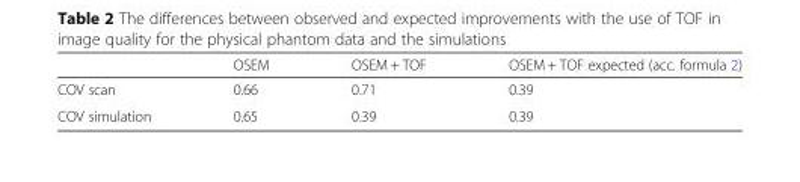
<table><thead><tr><td></td><td>OSEM</td><td>OSEM + TOF</td><td>OSEM + TOF expected (acc. formula 2)</td></tr></thead><tbody><tr><td>COV scan</td><td>0.66</td><td>0.71</td><td>0.39</td></tr><tr><td>COV simulation</td><td>0.65</td><td>0.39</td><td>0.39</td></tr></tbody></table>